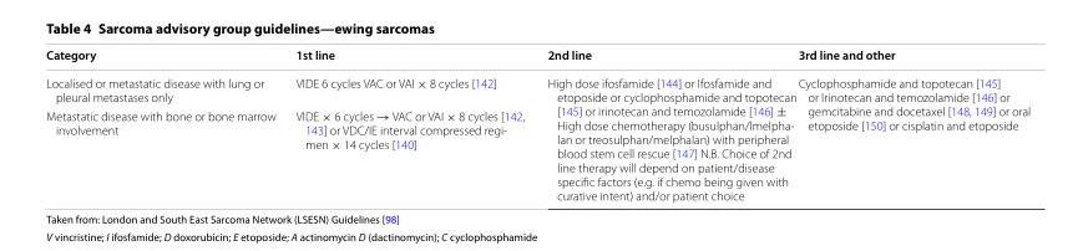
<table><thead><tr><td>Category</td><td>1st line</td><td>2nd line</td><td>3rd line and other</td></tr></thead><tbody><tr><td>Localised or metastatic disease with lung or pleural metastases only</td><td>VIDE 6 cycles VAC or VAI × 8 cycles [142]</td><td rowspan="2">High dose ifosfamide [144] or Ifosfamide and etoposide or cyclophosphamide and topotecan [145] or irinotecan and temozolamide [146] ± High dose chemotherapy (busulphan/lmelpha- lan or treosulphan/melphalan) with peripheral blood stem cell rescue [147] N.B. Choice of 2nd line therapy will depend on patient/disease specific factors (e.g. if chemo being given with curative intent) and/or patient choice</td><td rowspan="2">Cyclophosphamide and topotecan [145] or Irinotecan and temozolamide [146] or gemcitabine and docetaxel [148, 149] or oral etoposide [150] or cisplatin and etoposide</td></tr><tr><td>Metastatic disease with bone or bone marrow involvement</td><td>VIDE × 6 cycles → VAC or VAI × 8 cycles [142, 143] or VDC/IE interval compressed regi- men × 14 cycles [140]</td></tr></tbody></table>